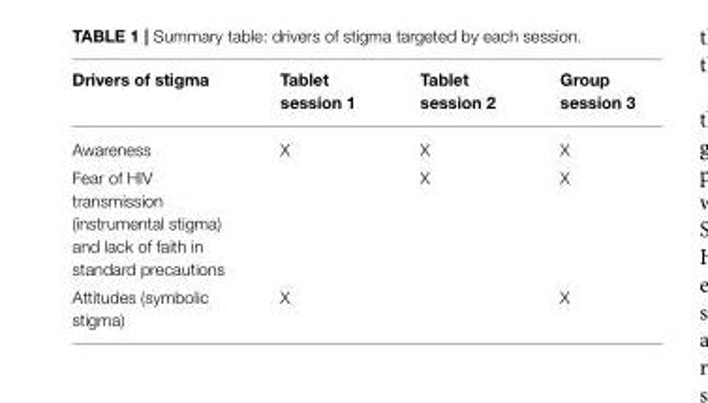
<table><thead><tr><td>Drivers of stigma</td><td>Tablet session 1</td><td>Tablet session 2</td><td>Group session 3</td></tr></thead><tbody><tr><td>Awareness</td><td>X</td><td>X</td><td>X</td></tr><tr><td>Fear of HIV transmission (instrumental stigma) and lack of faith in standard precautions</td><td></td><td>X</td><td>X</td></tr><tr><td>Attitudes (symbolic stigma)</td><td>X</td><td></td><td>X</td></tr></tbody></table>